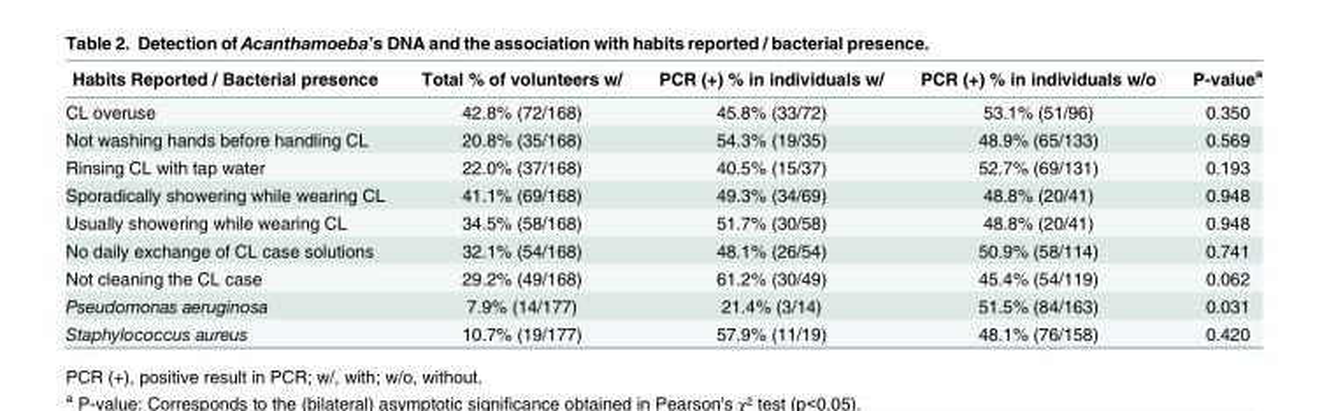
<table><thead><tr><td>Habits Reported / Bacterial presence</td><td>Total % of volunteers w/</td><td>PCR (+) % in individuals w/</td><td>PCR (+) % in individuals w/o</td><td>P-value<sup>a</sup></td></tr></thead><tbody><tr><td>CL overuse</td><td>42.8% (72/168)</td><td>45.8% (33/72)</td><td>53.1% (51/96)</td><td>0.350</td></tr><tr><td>Not washing hands before handling CL</td><td>20.8% (35/168)</td><td>54.3% (19/35)</td><td>48.9% (65/133)</td><td>0.569</td></tr><tr><td>Rinsing CL with tap water</td><td>22.0% (37/168)</td><td>40.5% (15/37)</td><td>52.7% (69/131)</td><td>0.193</td></tr><tr><td>Sporadically showering while wearing CL</td><td>41.1% (69/168)</td><td>49.3% (34/69)</td><td>48.8% (20/41)</td><td>0.948</td></tr><tr><td>Usually showering while wearing CL</td><td>34.5% (58/168)</td><td>51.7% (30/58)</td><td>48.8% (20/41)</td><td>0.948</td></tr><tr><td>No daily exchange of CL case solutions</td><td>32.1% (54/168)</td><td>48.1% (26/54)</td><td>50.9% (58/114)</td><td>0.741</td></tr><tr><td>Not cleaning the CL case</td><td>29.2% (49/168)</td><td>61.2% (30/49)</td><td>45.4% (54/119)</td><td>0.062</td></tr><tr><td>Pseudomonas aeruginosa</td><td>7.9% (14/177)</td><td>21.4% (3/14)</td><td>51.5% (84/163)</td><td>0.031</td></tr><tr><td>Staphylococcus aureus</td><td>10.7% (19/177)</td><td>57.9% (11/19)</td><td>48.1% (76/158)</td><td>0.420</td></tr></tbody></table>